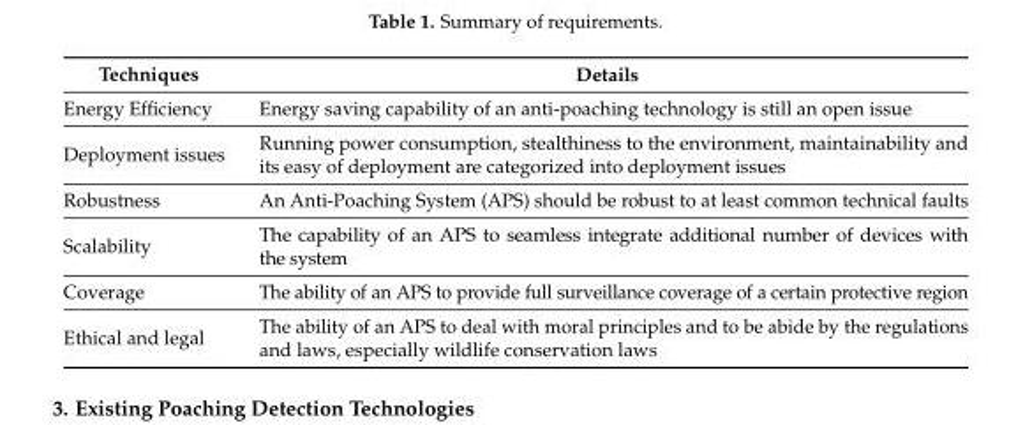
<table><thead><tr><td>Techniques</td><td>Details</td></tr></thead><tbody><tr><td>Energy Efficiency</td><td>Energy saving capability of an anti-poaching technology is still an open issue</td></tr><tr><td>Deployment issues</td><td>Running power consumption, stealthiness to the environment, maintainability and its easy of deployment are categorized into deployment issues</td></tr><tr><td>Robustness</td><td>An Anti-Poaching System (APS) should be robust to at least common technical faults</td></tr><tr><td>Scalability</td><td>The capability of an APS to seamless integrate additional number of devices with the system</td></tr><tr><td>Coverage</td><td>The ability of an APS to provide full surveillance coverage of a certain protective region</td></tr><tr><td>Ethical and legal</td><td>The ability of an APS to deal with moral principles and to be abide by the regulations and laws, especially wildlife conservation laws</td></tr></tbody></table>